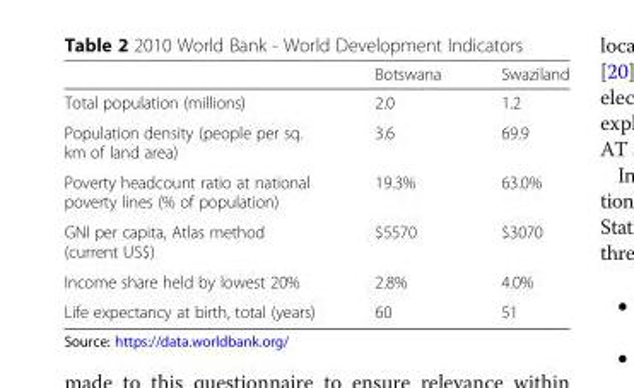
<table><thead><tr><td></td><td>Botswana</td><td>Swaziland</td></tr></thead><tbody><tr><td>Total population (millions)</td><td>2.0</td><td>1.2</td></tr><tr><td>Population density (people per sq. km of land area)</td><td>3.6</td><td>69.9</td></tr><tr><td>Poverty headcount ratio at national poverty lines (% of population)</td><td>19.3%</td><td>63.0%</td></tr><tr><td>GNI per capita, Atlas method (current US$)</td><td>$5570</td><td>$3070</td></tr><tr><td>Income share held by lowest 20%</td><td>2.8%</td><td>4.0%</td></tr><tr><td>Life expectancy at birth, total (years)</td><td>60</td><td>51</td></tr></tbody></table>